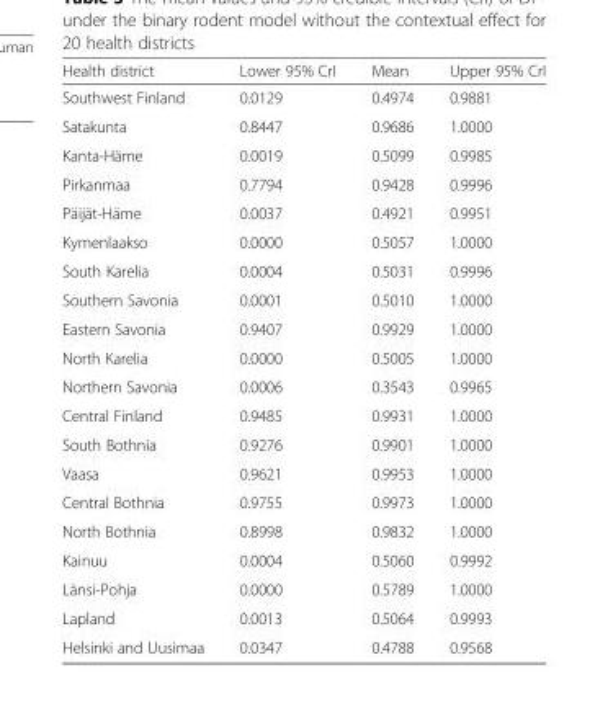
<table><thead><tr><td>Health district</td><td>Lower 95% CrI</td><td>Mean</td><td>Upper 95% CrI</td></tr></thead><tbody><tr><td>Southwest Finland</td><td>0.0129</td><td>0.4974</td><td>0.9881</td></tr><tr><td>Satakunta</td><td>0.8447</td><td>0.9686</td><td>1.0000</td></tr><tr><td>Kanta-Häme</td><td>0.0019</td><td>0.5099</td><td>0.9985</td></tr><tr><td>Pirkanmaa</td><td>0.7794</td><td>0.9428</td><td>0.9996</td></tr><tr><td>Päijät-Häme</td><td>0.0037</td><td>0.4921</td><td>0.9951</td></tr><tr><td>Kymenlaakso</td><td>0.0000</td><td>0.5057</td><td>1.0000</td></tr><tr><td>South Karelia</td><td>0.0004</td><td>0.5031</td><td>0.9996</td></tr><tr><td>Southern Savonia</td><td>0.0001</td><td>0.5010</td><td>1.0000</td></tr><tr><td>Eastern Savonia</td><td>0.9407</td><td>0.9929</td><td>1.0000</td></tr><tr><td>North Karelia</td><td>0.0000</td><td>0.5005</td><td>1.0000</td></tr><tr><td>Northern Savonia</td><td>0.0006</td><td>0.3543</td><td>0.9965</td></tr><tr><td>Central Finland</td><td>0.9485</td><td>0.9931</td><td>1.0000</td></tr><tr><td>South Bothnia</td><td>0.9276</td><td>0.9901</td><td>1.0000</td></tr><tr><td>Vaasa</td><td>0.9621</td><td>0.9953</td><td>1.0000</td></tr><tr><td>Central Bothnia</td><td>0.9755</td><td>0.9973</td><td>1.0000</td></tr><tr><td>North Bothnia</td><td>0.8998</td><td>0.9832</td><td>1.0000</td></tr><tr><td>Kainuu</td><td>0.0004</td><td>0.5060</td><td>0.9992</td></tr><tr><td>Länsi-Pohja</td><td>0.0000</td><td>0.5789</td><td>1.0000</td></tr><tr><td>Lapland</td><td>0.0013</td><td>0.5064</td><td>0.9993</td></tr><tr><td>Helsinki and Uusimaa</td><td>0.0347</td><td>0.4788</td><td>0.9568</td></tr></tbody></table>